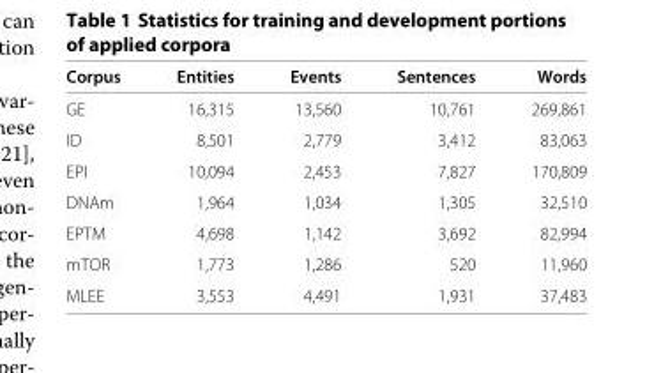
<table><thead><tr><td>Corpus</td><td>Entities</td><td>Events</td><td>Sentences</td><td>Words</td></tr></thead><tbody><tr><td>GE</td><td>16,315</td><td>13,560</td><td>10,761</td><td>269,861</td></tr><tr><td>ID</td><td>8,501</td><td>2,779</td><td>3,412</td><td>83,063</td></tr><tr><td>EPI</td><td>10,094</td><td>2,453</td><td>7,827</td><td>170,809</td></tr><tr><td>DNAm</td><td>1,964</td><td>1,034</td><td>1,305</td><td>32,510</td></tr><tr><td>EPTM</td><td>4,698</td><td>1,142</td><td>3,692</td><td>82,994</td></tr><tr><td>mTOR</td><td>1,773</td><td>1,286</td><td>520</td><td>11,960</td></tr><tr><td>MLEE</td><td>3,553</td><td>4,491</td><td>1,931</td><td>37,483</td></tr></tbody></table>